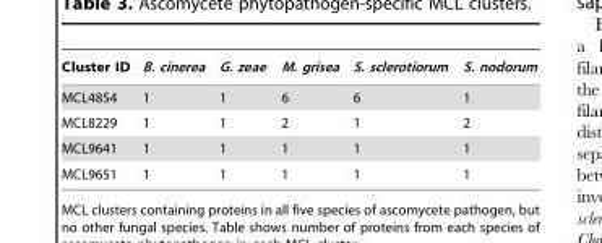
<table><thead><tr><td>Cluster ID</td><td>B. cinerea</td><td>G. zeae</td><td>M. grisea</td><td>S. sclerotiorum</td><td>S. nodorum</td></tr></thead><tbody><tr><td>MCL4854</td><td>1</td><td>1</td><td>6</td><td>6</td><td>1</td></tr><tr><td>MCL8229</td><td>1</td><td>1</td><td>2</td><td>1</td><td>2</td></tr><tr><td>MCL9641</td><td>1</td><td>1</td><td>1</td><td>1</td><td>1</td></tr><tr><td>MCL9651</td><td>1</td><td>1</td><td>1</td><td>1</td><td>1</td></tr></tbody></table>